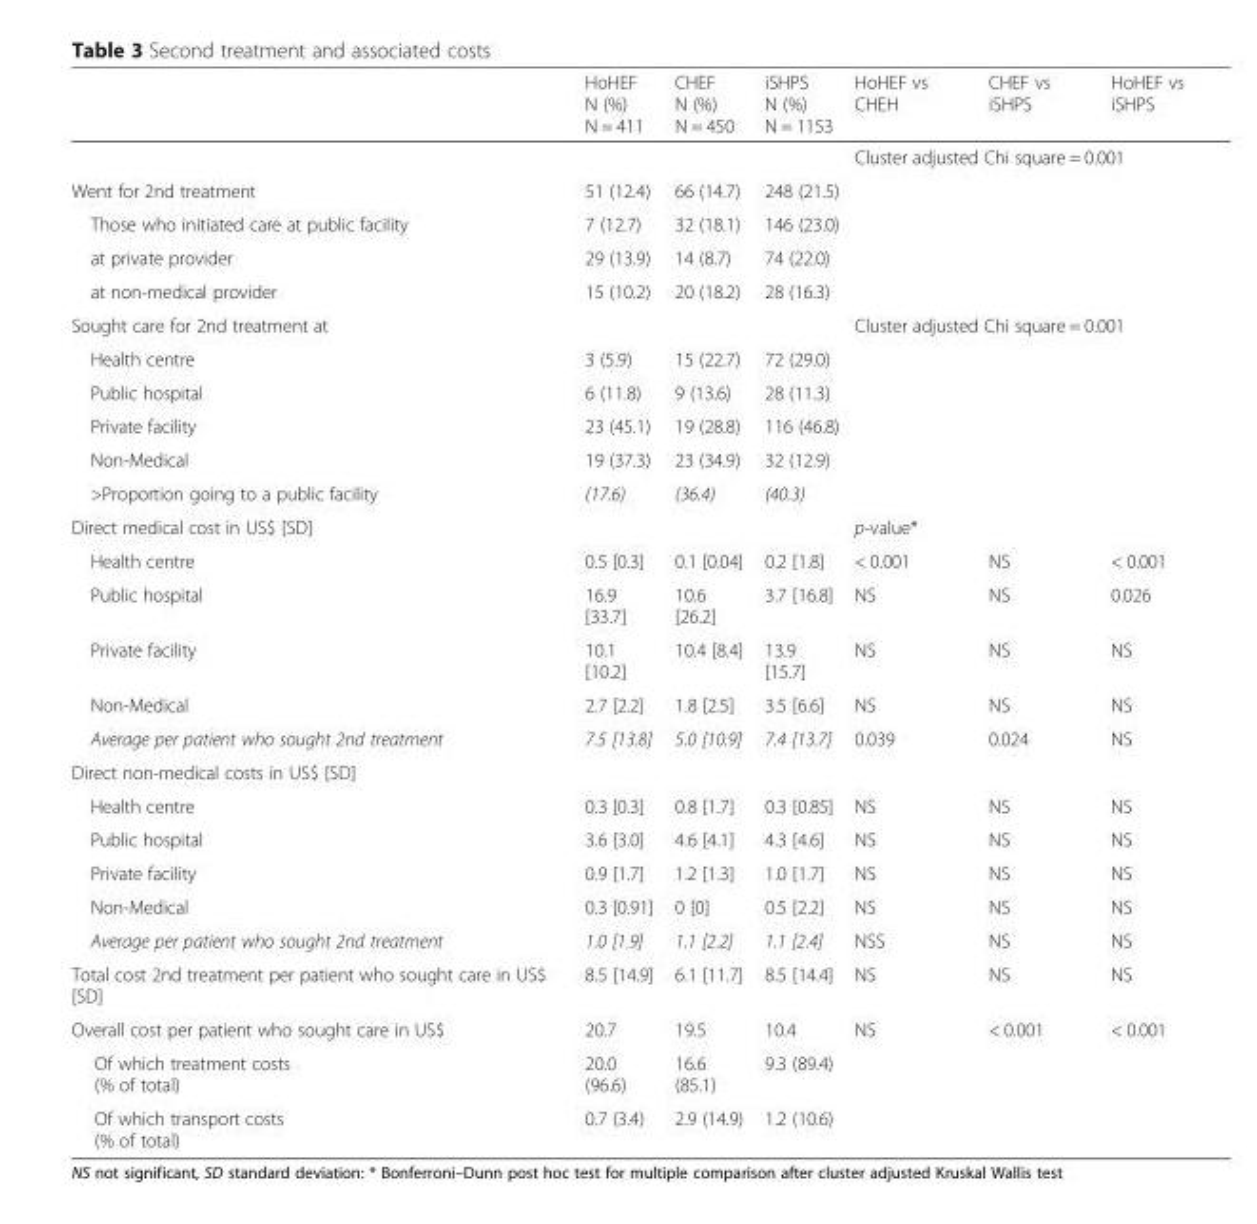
<table><thead><tr><td></td><td>HoHEF N (%) N = 411</td><td>CHEF N (%) N = 450</td><td>iSHPS N (%) N = 1153</td><td>HoHEF vs CHEH</td><td>CHEF vs iSHPS</td><td>HoHEF vs iSHPS</td></tr></thead><tbody><tr><td colspan="4"></td><td colspan="3">Cluster adjusted Chi square = 0.001</td></tr><tr><td>Went for 2nd treatment</td><td>51 (12.4)</td><td>66 (14.7)</td><td>248 (21.5)</td><td></td><td></td><td></td></tr><tr><td>Those who initiated care at public facility</td><td>7 (12.7)</td><td>32 (18.1)</td><td>146 (23.0)</td><td></td><td></td><td></td></tr><tr><td>at private provider</td><td>29 (13.9)</td><td>14 (8.7)</td><td>74 (22.0)</td><td></td><td></td><td></td></tr><tr><td>at non-medical provider</td><td>15 (10.2)</td><td>20 (18.2)</td><td>28 (16.3)</td><td></td><td></td><td></td></tr><tr><td colspan="4">Sought care for 2nd treatment at</td><td colspan="3">Cluster adjusted Chi square = 0.001</td></tr><tr><td>Health centre</td><td>3 (5.9)</td><td>15 (22.7)</td><td>72 (29.0)</td><td></td><td></td><td></td></tr><tr><td>Public hospital</td><td>6 (11.8)</td><td>9 (13.6)</td><td>28 (11.3)</td><td></td><td></td><td></td></tr><tr><td>Private facility</td><td>23 (45.1)</td><td>19 (28.8)</td><td>116 (46.8)</td><td></td><td></td><td></td></tr><tr><td>Non-Medical</td><td>19 (37.3)</td><td>23 (34.9)</td><td>32 (12.9)</td><td></td><td></td><td></td></tr><tr><td>&gt;Proportion going to a public facility</td><td>(17.6)</td><td>(36.4)</td><td>(40.3)</td><td></td><td></td><td></td></tr><tr><td colspan="4">Direct medical cost in US$ [SD]</td><td colspan="3">p-value*</td></tr><tr><td>Health centre</td><td>0.5 [0.3]</td><td>0.1 [0.04]</td><td>0.2 [1.8]</td><td>&lt; 0.001</td><td>NS</td><td>&lt; 0.001</td></tr><tr><td>Public hospital</td><td>16.9 [33.7]</td><td>10.6 [26.2]</td><td>3.7 [16.8]</td><td>NS</td><td>NS</td><td>0.026</td></tr><tr><td>Private facility</td><td>10.1 [10.2]</td><td>10.4 [8.4]</td><td>13.9 [15.7]</td><td>NS</td><td>NS</td><td>NS</td></tr><tr><td>Non-Medical</td><td>2.7 [2.2]</td><td>1.8 [2.5]</td><td>3.5 [6.6]</td><td>NS</td><td>NS</td><td>NS</td></tr><tr><td>Average per patient who sought 2nd treatment</td><td>7.5 [13.8]</td><td>5.0 [10.9]</td><td>7.4 [13.7]</td><td>0.039</td><td>0.024</td><td>NS</td></tr><tr><td colspan="7">Direct non-medical costs in US$ [SD]</td></tr><tr><td>Health centre</td><td>0.3 [0.3]</td><td>0.8 [1.7]</td><td>0.3 [0.85]</td><td>NS</td><td>NS</td><td>NS</td></tr><tr><td>Public hospital</td><td>3.6 [3.0]</td><td>4.6 [4.1]</td><td>4.3 [4.6]</td><td>NS</td><td>NS</td><td>NS</td></tr><tr><td>Private facility</td><td>0.9 [1.7]</td><td>1.2 [1.3]</td><td>1.0 [1.7]</td><td>NS</td><td>NS</td><td>NS</td></tr><tr><td>Non-Medical</td><td>0.3 [0.91]</td><td>0 [0]</td><td>0.5 [2.2]</td><td>NS</td><td>NS</td><td>NS</td></tr><tr><td>Average per patient who sought 2nd treatment</td><td>1.0 [1.9]</td><td>1.1 [2.2]</td><td>1.1 [2.4]</td><td>NSS</td><td>NS</td><td>NS</td></tr><tr><td>Total cost 2nd treatment per patient who sought care in US$ [SD]</td><td>8.5 [14.9]</td><td>6.1 [11.7]</td><td>8.5 [14.4]</td><td>NS</td><td>NS</td><td>NS</td></tr><tr><td>Overall cost per patient who sought care in US$</td><td>20.7</td><td>19.5</td><td>10.4</td><td>NS</td><td>&lt; 0.001</td><td>&lt; 0.001</td></tr><tr><td>Of which treatment costs (% of total)</td><td>20.0 (96.6)</td><td>16.6 (85.1)</td><td>9.3 (89.4)</td><td></td><td></td><td></td></tr><tr><td>Of which transport costs (% of total)</td><td>0.7 (3.4)</td><td>2.9 (14.9)</td><td>1.2 (10.6)</td><td></td><td></td><td></td></tr></tbody></table>